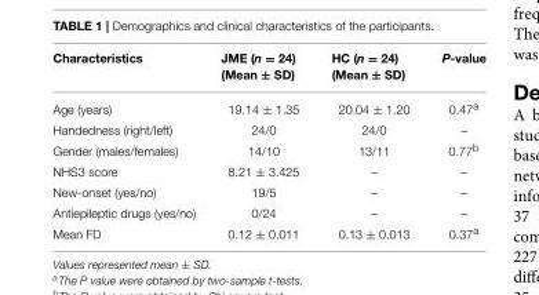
<table><thead><tr><td>Characteristics</td><td>JME (n = 24) (Mean ± SD)</td><td>HC (n = 24) (Mean ± SD)</td><td>P-value</td></tr></thead><tbody><tr><td>Age (years)</td><td>19.14 ± 1.35</td><td>20.04 ± 1.20</td><td>0.47<sup>a</sup></td></tr><tr><td>Handedness (right/left)</td><td>24/0</td><td>24/0</td><td>–</td></tr><tr><td>Gender (males/females)</td><td>14/10</td><td>13/11</td><td>0.77<sup>b</sup></td></tr><tr><td>NHS3 score</td><td>8.21 ± 3.425</td><td>–</td><td>–</td></tr><tr><td>New-onset (yes/no)</td><td>19/5</td><td>–</td><td>–</td></tr><tr><td>Antiepileptic drugs (yes/no)</td><td>0/24</td><td>–</td><td>–</td></tr><tr><td>Mean FD</td><td>0.12 ± 0.011</td><td>0.13 ± 0.013</td><td>0.37<sup>a</sup></td></tr></tbody></table>